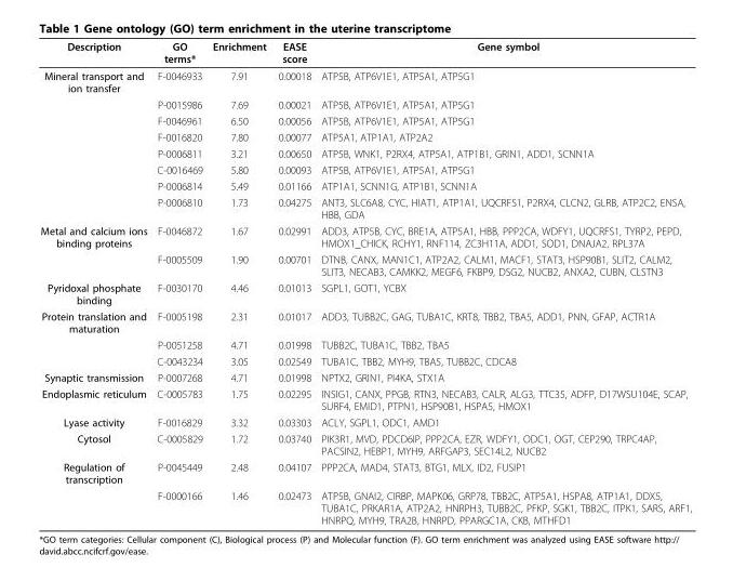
<table><thead><tr><td>Description</td><td>GO terms*</td><td>Enrichment</td><td>EASE score</td><td>Gene symbol</td></tr></thead><tbody><tr><td rowspan="8">Mineral transport and ion transfer</td><td>F-0046933</td><td>7.91</td><td>0.00018</td><td>ATP5B, ATP6V1E1, ATP5A1, ATP5G1</td></tr><tr><td>P-0015986</td><td>7.69</td><td>0.00021</td><td>ATP5B, ATP6V1E1, ATP5A1, ATP5G1</td></tr><tr><td>F-0046961</td><td>6.50</td><td>0.00056</td><td>ATP5B, ATP6V1E1, ATP5A1, ATP5G1</td></tr><tr><td>F-0016820</td><td>7.80</td><td>0.00077</td><td>ATP5A1, ATP1A1, ATP2A2</td></tr><tr><td>P-0006811</td><td>3.21</td><td>0.00650</td><td>ATP5B, WNK1, P2RX4, ATP5A1, ATP1B1, GRIN1, ADD1, SCNN1A</td></tr><tr><td>C-0016469</td><td>5.80</td><td>0.00093</td><td>ATP5B, ATP6V1E1, ATP5A1, ATP5G1</td></tr><tr><td>P-0006814</td><td>5.49</td><td>0.01166</td><td>ATP1A1, SCNN1G, ATP1B1, SCNN1A</td></tr><tr><td>P-0006810</td><td>1.73</td><td>0.04275</td><td>ANT3, SLC6A8, CYC, HIAT1, ATP1A1, UQCRFS1, P2RX4, CLCN2, GLRB, ATP2C2, ENSA, HBB, GDA</td></tr><tr><td rowspan="2">Metal and calcium ions binding proteins</td><td>F-0046872</td><td>1.67</td><td>0.02991</td><td>ADD3, ATP5B, CYC, BRE1A, ATP5A1, HBB, PPP2CA, WDFY1, UQCRFS1, TYRP2, PEPD, HMOX1_CHICK, RCHY1, RNF114, ZC3H11A, ADD1, SOD1, DNAJA2, RPL37A</td></tr><tr><td>F-0005509</td><td>1.90</td><td>0.00701</td><td>DTNB, CANX, MAN1C1, ATP2A2, CALM1, MACF1, STAT3, HSP90B1, SLIT2, CALM2, SLIT3, NECAB3, CAMKK2, MEGF6, FKBP9, DSG2, NUCB2, ANXA2, CUBN, CLSTN3</td></tr><tr><td>Pyridoxal phosphate binding</td><td>F-0030170</td><td>4.46</td><td>0.01013</td><td>SGPL1, GOT1, YCBX</td></tr><tr><td rowspan="3">Protein translation and maturation</td><td>F-0005198</td><td>2.31</td><td>0.01017</td><td>ADD3, TUBB2C, GAG, TUBA1C, KRT8, TBB2, TBA5, ADD1, PNN, GFAP, ACTR1A</td></tr><tr><td>P-0051258</td><td>4.71</td><td>0.01998</td><td>TUBB2C, TUBA1C, TBB2, TBA5</td></tr><tr><td>C-0043234</td><td>3.05</td><td>0.02549</td><td>TUBA1C, TBB2, MYH9, TBA5, TUBB2C, CDCA8</td></tr><tr><td>Synaptic transmission</td><td>P-0007268</td><td>4.71</td><td>0.01998</td><td>NPTX2, GRIN1, PI4KA, STX1A</td></tr><tr><td>Endoplasmic reticulum</td><td>C-0005783</td><td>1.75</td><td>0.02295</td><td>INSIG1, CANX, PPGB, RTN3, NECAB3, CALR, ALG3, TTC35, ADFP, D17WSU104E, SCAP, SURF4, EMID1, PTPN1, HSP90B1, HSPA5, HMOX1</td></tr><tr><td>Lyase activity</td><td>F-0016829</td><td>3.32</td><td>0.03303</td><td>ACLY, SGPL1, ODC1, AMD1</td></tr><tr><td>Cytosol</td><td>C-0005829</td><td>1.72</td><td>0.03740</td><td>PIK3R1, MVD, PDCD6IP, PPP2CA, EZR, WDFY1, ODC1, OGT, CEP290, TRPC4AP, PACSIN2, HEBP1, MYH9, ARFGAP3, SEC14L2, NUCB2</td></tr><tr><td rowspan="2">Regulation of transcription</td><td>P-0045449</td><td>2.48</td><td>0.04107</td><td>PPP2CA, MAD4, STAT3, BTG1, MLX, ID2, FUSIP1</td></tr><tr><td>F-0000166</td><td>1.46</td><td>0.02473</td><td>ATP5B, GNAI2, CIRBP, MAPK06, GRP78, TBB2C, ATP5A1, HSPA8, ATP1A1, DDX5, TUBA1C, PRKAR1A, ATP2A2, HNRPH3, TUBB2C, PFKP, SGK1, TBB2C, ITPK1, SARS, ARF1, HNRPQ, MYH9, TRA2B, HNRPD, PPARGC1A, CKB, MTHFD1</td></tr></tbody></table>